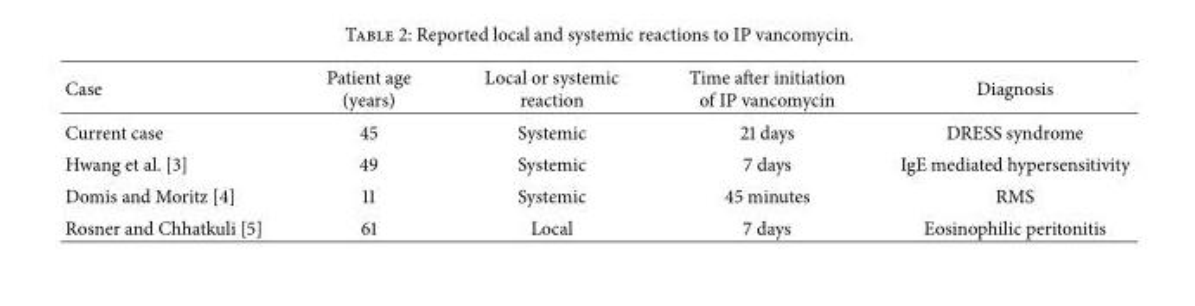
<table><thead><tr><td>Case</td><td>Patient age (years)</td><td>Local or systemic reaction</td><td>Time after initiation of IP vancomycin</td><td>Diagnosis</td></tr></thead><tbody><tr><td>Current case</td><td>45</td><td>Systemic</td><td>21 days</td><td>DRESS syndrome</td></tr><tr><td>Hwang et al. [3]</td><td>49</td><td>Systemic</td><td>7 days</td><td>IgE mediated hypersensitivity</td></tr><tr><td>Domis and Moritz [4]</td><td>11</td><td>Systemic</td><td>45 minutes</td><td>RMS</td></tr><tr><td>Rosner and Chhatkuli [5]</td><td>61</td><td>Local</td><td>7 days</td><td>Eosinophilic peritonitis</td></tr></tbody></table>